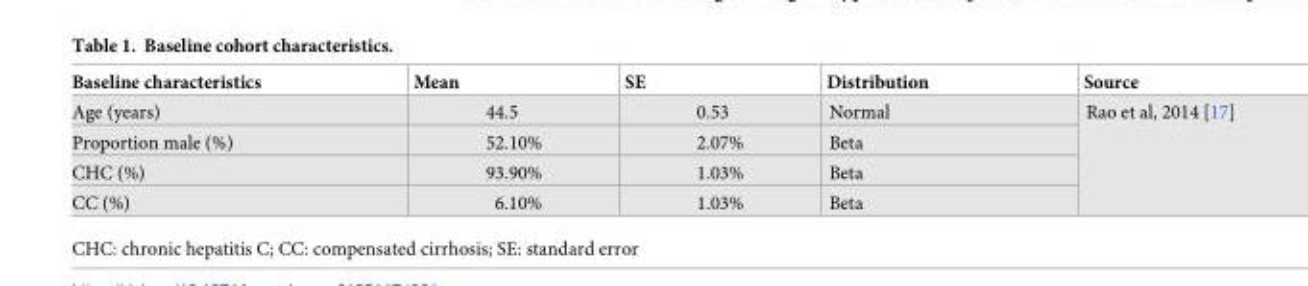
<table><thead><tr><td>Baseline characteristics</td><td>Mean</td><td>SE</td><td>Distribution</td><td>Source</td></tr></thead><tbody><tr><td>Age (years)</td><td>44.5</td><td>0.53</td><td>Normal</td><td rowspan="4">Rao et al, 2014 [17]</td></tr><tr><td>Proportion male (%)</td><td>52.10%</td><td>2.07%</td><td>Beta</td></tr><tr><td>CHC (%)</td><td>93.90%</td><td>1.03%</td><td>Beta</td></tr><tr><td>CC (%)</td><td>6.10%</td><td>1.03%</td><td>Beta</td></tr></tbody></table>